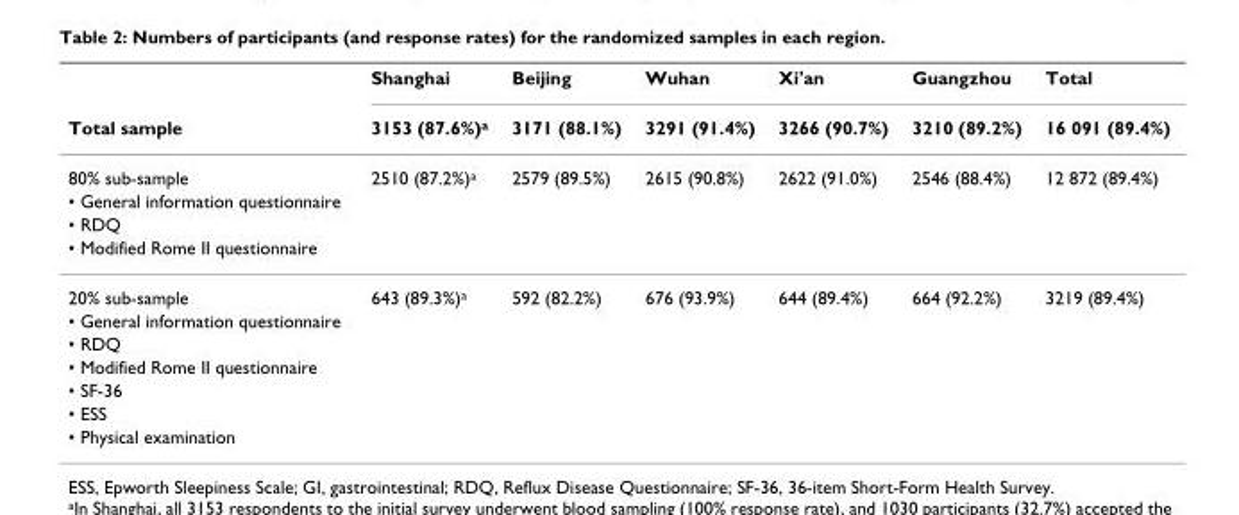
<table><thead><tr><td rowspan="2">Total sample</td><td rowspan="2">Shanghai 3153 (87.6%)a</td><td rowspan="2">Beijing 3171 (88.1%)</td><td rowspan="2">Wuhan 3291 (91.4%)</td><td rowspan="2">Xi&#x27;an 3266 (90.7%)</td><td rowspan="2">Guangzhou 3210 (89.2%)</td><td rowspan="2">Total 16 091 (89.4%)</td></tr><tr></tr></thead><tbody><tr><td>80% sub-sample</td><td>2510 (87.2%)a</td><td>2579 (89.5%)</td><td>2615 (90.8%)</td><td>2622 (91.0%)</td><td>2546 (88.4%)</td><td>12 872 (89.4%)</td></tr><tr><td colspan="7">• General information questionnaire</td></tr><tr><td colspan="7">• RDQ</td></tr><tr><td colspan="7">• Modified Rome II questionnaire</td></tr><tr><td>20% sub-sample</td><td>643 (89.3%)a</td><td>592 (82.2%)</td><td>676 (93.9%)</td><td>644 (89.4%)</td><td>664 (92.2%)</td><td>3219 (89.4%)</td></tr><tr><td colspan="7">• General information questionnaire</td></tr><tr><td colspan="7">• RDQ</td></tr><tr><td colspan="7">• Modified Rome II questionnaire</td></tr><tr><td colspan="7">• SF-36</td></tr><tr><td colspan="7">• ESS</td></tr><tr><td>• Physical examination</td><td></td><td></td><td></td><td></td><td></td><td></td></tr></tbody></table>